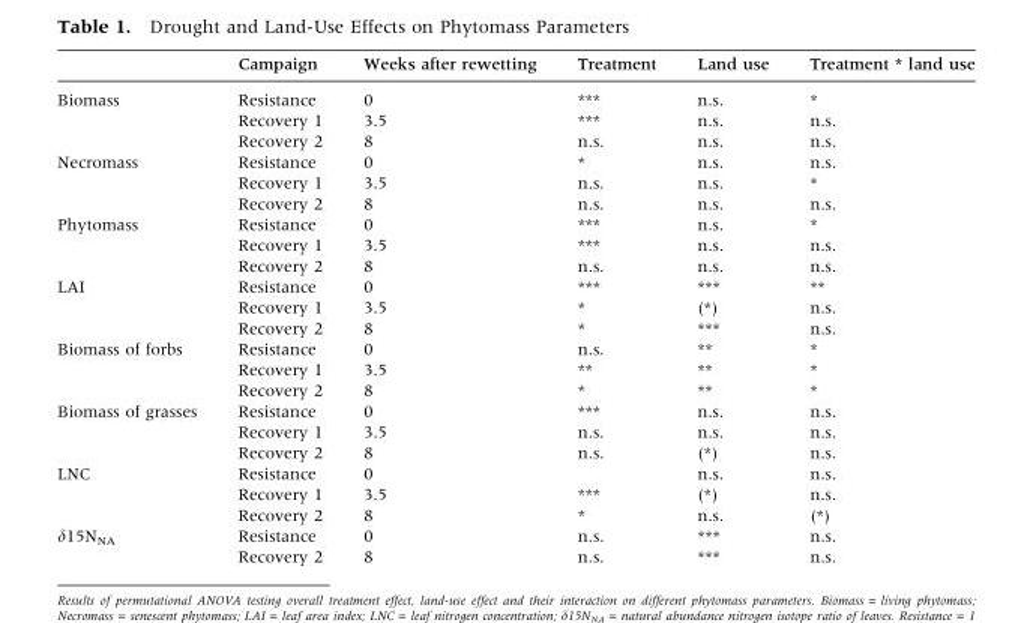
<table><thead><tr><td></td><td>Campaign</td><td>Weeks after rewetting</td><td>Treatment</td><td>Land use</td><td>Treatment * land use</td></tr></thead><tbody><tr><td rowspan="3">Biomass</td><td>Resistance</td><td>0</td><td>***</td><td>n.s.</td><td>*</td></tr><tr><td>Recovery 1</td><td>3.5</td><td>***</td><td>n.s.</td><td>n.s.</td></tr><tr><td>Recovery 2</td><td>8</td><td>n.s.</td><td>n.s.</td><td>n.s.</td></tr><tr><td rowspan="3">Necromass</td><td>Resistance</td><td>0</td><td>*</td><td>n.s.</td><td>n.s.</td></tr><tr><td>Recovery 1</td><td>3.5</td><td>n.s.</td><td>n.s.</td><td>*</td></tr><tr><td>Recovery 2</td><td>8</td><td>n.s.</td><td>n.s.</td><td>n.s.</td></tr><tr><td rowspan="3">Phytomass</td><td>Resistance</td><td>0</td><td>***</td><td>n.s.</td><td>*</td></tr><tr><td>Recovery 1</td><td>3.5</td><td>***</td><td>n.s.</td><td>n.s.</td></tr><tr><td>Recovery 2</td><td>8</td><td>n.s.</td><td>n.s.</td><td>n.s.</td></tr><tr><td rowspan="3">LAI</td><td>Resistance</td><td>0</td><td>***</td><td>***</td><td>**</td></tr><tr><td>Recovery 1</td><td>3.5</td><td>*</td><td>(*)</td><td>n.s.</td></tr><tr><td>Recovery 2</td><td>8</td><td>*</td><td>***</td><td>n.s.</td></tr><tr><td rowspan="3">Biomass of forbs</td><td>Resistance</td><td>0</td><td>n.s.</td><td>**</td><td>*</td></tr><tr><td>Recovery 1</td><td>3.5</td><td>**</td><td>**</td><td>*</td></tr><tr><td>Recovery 2</td><td>8</td><td>*</td><td>**</td><td>*</td></tr><tr><td rowspan="3">Biomass of grasses</td><td>Resistance</td><td>0</td><td>***</td><td>n.s.</td><td>n.s.</td></tr><tr><td>Recovery 1</td><td>3.5</td><td>n.s.</td><td>n.s.</td><td>n.s.</td></tr><tr><td>Recovery 2</td><td>8</td><td>n.s.</td><td>(*)</td><td>n.s.</td></tr><tr><td rowspan="3">LNC</td><td>Resistance</td><td>0</td><td></td><td>n.s.</td><td>n.s.</td></tr><tr><td>Recovery 1</td><td>3.5</td><td>***</td><td>(*)</td><td>n.s.</td></tr><tr><td>Recovery 2</td><td>8</td><td>*</td><td>n.s.</td><td>(*)</td></tr><tr><td rowspan="2">δ15N<sub>NA</sub></td><td>Resistance</td><td>0</td><td>n.s.</td><td>***</td><td>n.s.</td></tr><tr><td>Recovery 2</td><td>8</td><td>n.s.</td><td>***</td><td>n.s.</td></tr></tbody></table>